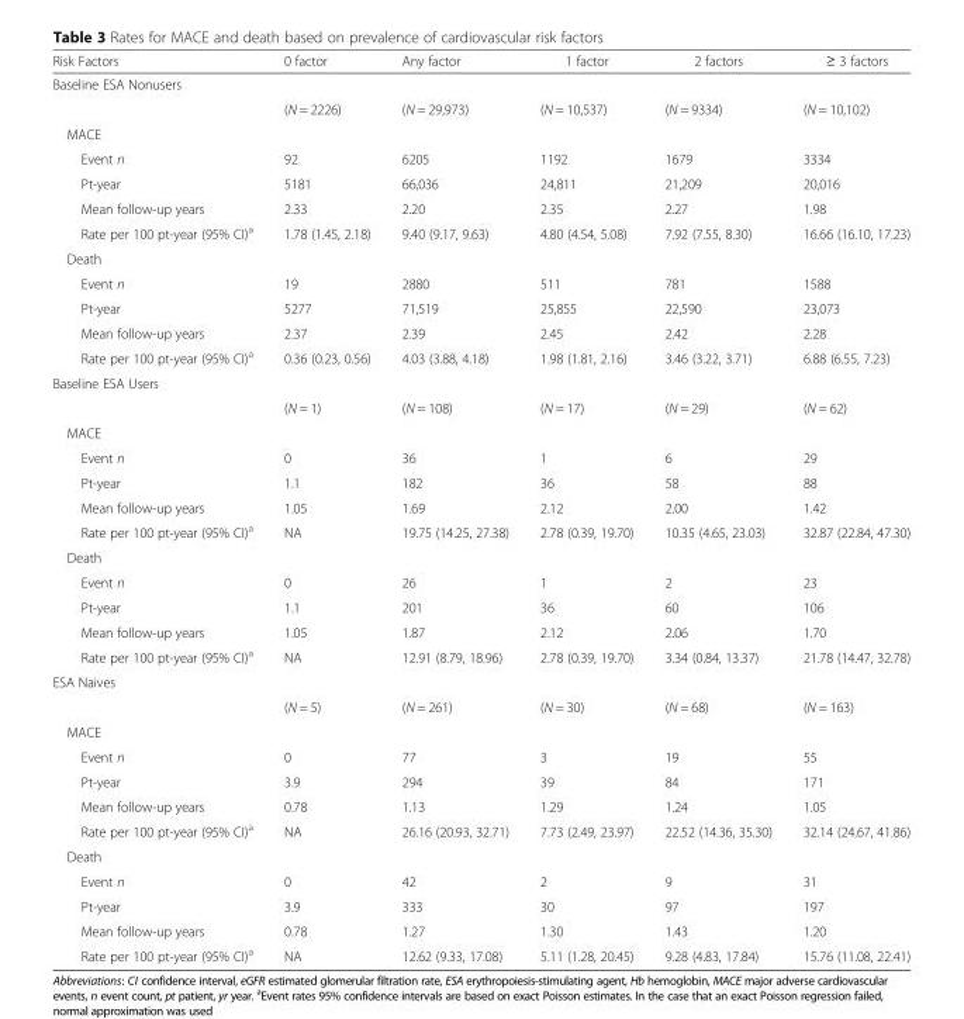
<table><thead><tr><td>Risk Factors</td><td>0 factor</td><td>Any factor</td><td>1 factor</td><td>2 factors</td><td>≥ 3 factors</td></tr></thead><tbody><tr><td colspan="6">Baseline ESA Nonusers</td></tr><tr><td></td><td>(N = 2226)</td><td>(N = 29,973)</td><td>(N = 10,537)</td><td>(N = 9334)</td><td>(N = 10,102)</td></tr><tr><td colspan="6">MACE</td></tr><tr><td>Event n</td><td>92</td><td>6205</td><td>1192</td><td>1679</td><td>3334</td></tr><tr><td>Pt-year</td><td>5181</td><td>66,036</td><td>24,811</td><td>21,209</td><td>20,016</td></tr><tr><td>Mean follow-up years</td><td>2.33</td><td>2.20</td><td>2.35</td><td>2.27</td><td>1.98</td></tr><tr><td>Rate per 100 pt-year (95% CI)<sup>a</sup></td><td>1.78 (1.45, 2.18)</td><td>9.40 (9.17, 9.63)</td><td>4.80 (4.54, 5.08)</td><td>7.92 (7.55, 8.30)</td><td>16.66 (16.10, 17.23)</td></tr><tr><td colspan="6">Death</td></tr><tr><td>Event n</td><td>19</td><td>2880</td><td>511</td><td>781</td><td>1588</td></tr><tr><td>Pt-year</td><td>5277</td><td>71,519</td><td>25,855</td><td>22,590</td><td>23,073</td></tr><tr><td>Mean follow-up years</td><td>2.37</td><td>2.39</td><td>2.45</td><td>2.42</td><td>2.28</td></tr><tr><td>Rate per 100 pt-year (95% CI)<sup>a</sup></td><td>0.36 (0.23, 0.56)</td><td>4.03 (3.88, 4.18)</td><td>1.98 (1.81, 2.16)</td><td>3.46 (3.22, 3.71)</td><td>6.88 (6.55, 7.23)</td></tr><tr><td colspan="6">Baseline ESA Users</td></tr><tr><td></td><td>(N = 1)</td><td>(N = 108)</td><td>(N = 17)</td><td>(N = 29)</td><td>(N = 62)</td></tr><tr><td colspan="6">MACE</td></tr><tr><td>Event n</td><td>0</td><td>36</td><td>1</td><td>6</td><td>29</td></tr><tr><td>Pt-year</td><td>1.1</td><td>182</td><td>36</td><td>58</td><td>88</td></tr><tr><td>Mean follow-up years</td><td>1.05</td><td>1.69</td><td>2.12</td><td>2.00</td><td>1.42</td></tr><tr><td>Rate per 100 pt-year (95% CI)<sup>a</sup></td><td>NA</td><td>19.75 (14.25, 27.38)</td><td>2.78 (0.39, 19.70)</td><td>10.35 (4.65, 23.03)</td><td>32.87 (22.84, 47.30)</td></tr><tr><td colspan="6">Death</td></tr><tr><td>Event n</td><td>0</td><td>26</td><td>1</td><td>2</td><td>23</td></tr><tr><td>Pt-year</td><td>1.1</td><td>201</td><td>36</td><td>60</td><td>106</td></tr><tr><td>Mean follow-up years</td><td>1.05</td><td>1.87</td><td>2.12</td><td>2.06</td><td>1.70</td></tr><tr><td>Rate per 100 pt-year (95% CI)<sup>a</sup></td><td>NA</td><td>12.91 (8.79, 18.96)</td><td>2.78 (0.39, 19.70)</td><td>3.34 (0.84, 13.37)</td><td>21.78 (14.47, 32.78)</td></tr><tr><td colspan="6">ESA Naives</td></tr><tr><td></td><td>(N = 5)</td><td>(N = 261)</td><td>(N = 30)</td><td>(N = 68)</td><td>(N = 163)</td></tr><tr><td colspan="6">MACE</td></tr><tr><td>Event n</td><td>0</td><td>77</td><td>3</td><td>19</td><td>55</td></tr><tr><td>Pt-year</td><td>3.9</td><td>294</td><td>39</td><td>84</td><td>171</td></tr><tr><td>Mean follow-up years</td><td>0.78</td><td>1.13</td><td>1.29</td><td>1.24</td><td>1.05</td></tr><tr><td>Rate per 100 pt-year (95% CI)<sup>a</sup></td><td>NA</td><td>26.16 (20.93, 32.71)</td><td>7.73 (2.49, 23.97)</td><td>22.52 (14.36, 35.30)</td><td>32.14 (24.67, 41.86)</td></tr><tr><td colspan="6">Death</td></tr><tr><td>Event n</td><td>0</td><td>42</td><td>2</td><td>9</td><td>31</td></tr><tr><td>Pt-year</td><td>3.9</td><td>333</td><td>30</td><td>97</td><td>197</td></tr><tr><td>Mean follow-up years</td><td>0.78</td><td>1.27</td><td>1.30</td><td>1.43</td><td>1.20</td></tr><tr><td>Rate per 100 pt-year (95% CI)<sup>a</sup></td><td>NA</td><td>12.62 (9.33, 17.08)</td><td>5.11 (1.28, 20.45)</td><td>9.28 (4.83, 17.84)</td><td>15.76 (11.08, 22.41)</td></tr></tbody></table>